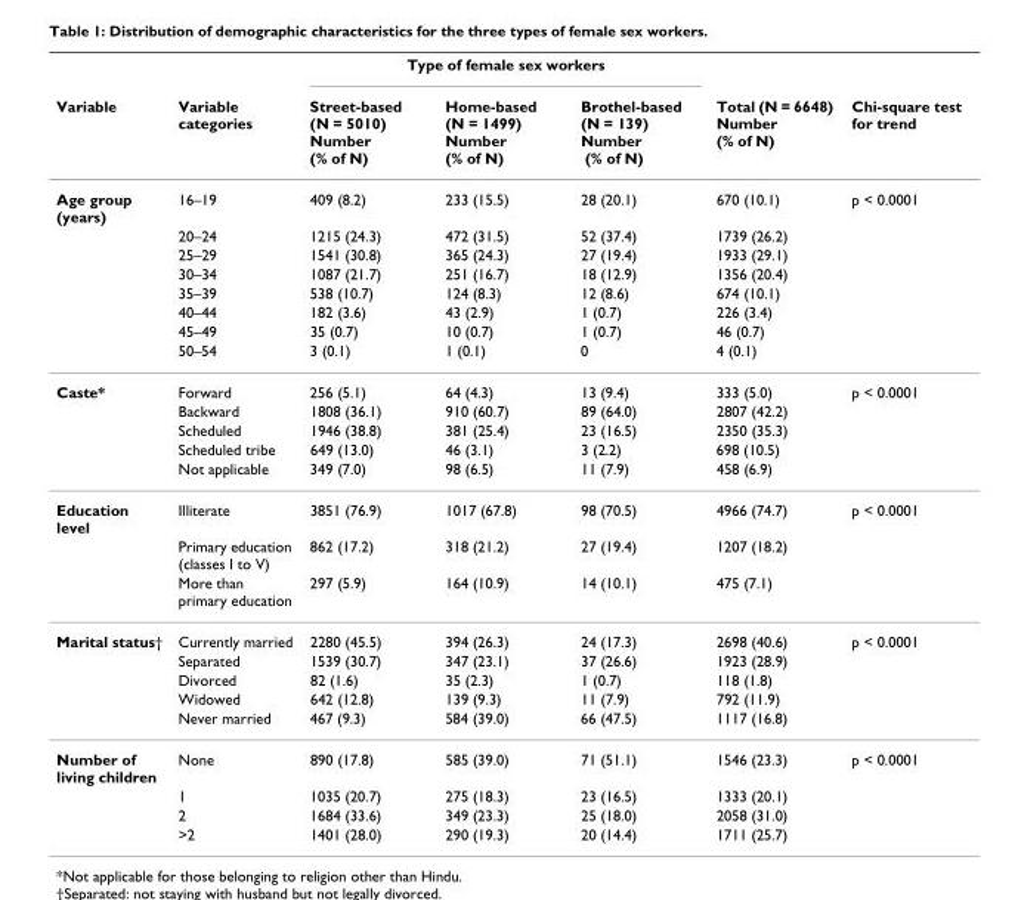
<table><thead><tr><td rowspan="2">Variable</td><td rowspan="2">Variable categories</td><td colspan="3">Type of female sex workers</td><td rowspan="2">Total (N = 6648) Number (% of N)</td><td rowspan="2">Chi-square test for trend</td></tr><tr><td>Street-based (N = 5010) Number (% of N)</td><td>Home-based (N = 1499) Number (% of N)</td><td>Brothel-based (N = 139) Number (% of N)</td></tr></thead><tbody><tr><td rowspan="8">Age group (years)</td><td>16–19</td><td>409 (8.2)</td><td>233 (15.5)</td><td>28 (20.1)</td><td>670 (10.1)</td><td>p &lt; 0.0001</td></tr><tr><td>20–24</td><td>1215 (24.3)</td><td>472 (31.5)</td><td>52 (37.4)</td><td>1739 (26.2)</td><td></td></tr><tr><td>25–29</td><td>1541 (30.8)</td><td>365 (24.3)</td><td>27 (19.4)</td><td>1933 (29.1)</td><td></td></tr><tr><td>30–34</td><td>1087 (21.7)</td><td>251 (16.7)</td><td>18 (12.9)</td><td>1356 (20.4)</td><td></td></tr><tr><td>35–39</td><td>538 (10.7)</td><td>124 (8.3)</td><td>12 (8.6)</td><td>674 (10.1)</td><td></td></tr><tr><td>40–44</td><td>182 (3.6)</td><td>43 (2.9)</td><td>1 (0.7)</td><td>226 (3.4)</td><td></td></tr><tr><td>45–49</td><td>35 (0.7)</td><td>10 (0.7)</td><td>1 (0.7)</td><td>46 (0.7)</td><td></td></tr><tr><td>50–54</td><td>3 (0.1)</td><td>1 (0.1)</td><td>0</td><td>4 (0.1)</td><td></td></tr><tr><td rowspan="5">Caste*</td><td>Forward</td><td>256 (5.1)</td><td>64 (4.3)</td><td>13 (9.4)</td><td>333 (5.0)</td><td>p &lt; 0.0001</td></tr><tr><td>Backward</td><td>1808 (36.1)</td><td>910 (60.7)</td><td>89 (64.0)</td><td>2807 (42.2)</td><td></td></tr><tr><td>Scheduled</td><td>1946 (38.8)</td><td>381 (25.4)</td><td>23 (16.5)</td><td>2350 (35.3)</td><td></td></tr><tr><td>Scheduled tribe</td><td>649 (13.0)</td><td>46 (3.1)</td><td>3 (2.2)</td><td>698 (10.5)</td><td></td></tr><tr><td>Not applicable</td><td>349 (7.0)</td><td>98 (6.5)</td><td>11 (7.9)</td><td>458 (6.9)</td><td></td></tr><tr><td rowspan="3">Education level</td><td>Illiterate</td><td>3851 (76.9)</td><td>1017 (67.8)</td><td>98 (70.5)</td><td>4966 (74.7)</td><td>p &lt; 0.0001</td></tr><tr><td>Primary education (classes I to V)</td><td>862 (17.2)</td><td>318 (21.2)</td><td>27 (19.4)</td><td>1207 (18.2)</td><td></td></tr><tr><td>More than primary education</td><td>297 (5.9)</td><td>164 (10.9)</td><td>14 (10.1)</td><td>475 (7.1)</td><td></td></tr><tr><td rowspan="5">Marital status†</td><td>Currently married</td><td>2280 (45.5)</td><td>394 (26.3)</td><td>24 (17.3)</td><td>2698 (40.6)</td><td>p &lt; 0.0001</td></tr><tr><td>Separated</td><td>1539 (30.7)</td><td>347 (23.1)</td><td>37 (26.6)</td><td>1923 (28.9)</td><td></td></tr><tr><td>Divorced</td><td>82 (1.6)</td><td>35 (2.3)</td><td>1 (0.7)</td><td>118 (1.8)</td><td></td></tr><tr><td>Widowed</td><td>642 (12.8)</td><td>139 (9.3)</td><td>11 (7.9)</td><td>792 (11.9)</td><td></td></tr><tr><td>Never married</td><td>467 (9.3)</td><td>584 (39.0)</td><td>66 (47.5)</td><td>1117 (16.8)</td><td></td></tr><tr><td rowspan="4">Number of living children</td><td>None</td><td>890 (17.8)</td><td>585 (39.0)</td><td>71 (51.1)</td><td>1546 (23.3)</td><td>p &lt; 0.0001</td></tr><tr><td>1</td><td>1035 (20.7)</td><td>275 (18.3)</td><td>23 (16.5)</td><td>1333 (20.1)</td><td></td></tr><tr><td>2</td><td>1684 (33.6)</td><td>349 (23.3)</td><td>25 (18.0)</td><td>2058 (31.0)</td><td></td></tr><tr><td>&gt;2</td><td>1401 (28.0)</td><td>290 (19.3)</td><td>20 (14.4)</td><td>1711 (25.7)</td><td></td></tr></tbody></table>